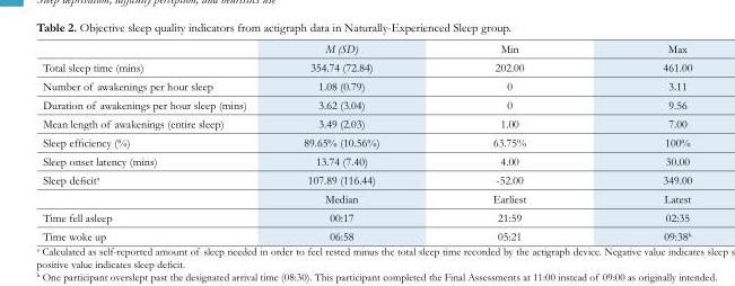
<table><thead><tr><td></td><td>M (SD)</td><td>Min</td><td>Max</td></tr></thead><tbody><tr><td>Total sleep time (mins)</td><td>354.74 (72.84)</td><td>202.00</td><td>461.00</td></tr><tr><td>Number of awakenings per hour sleep</td><td>1.08 (0.79)</td><td>0</td><td>3.11</td></tr><tr><td>Duration of awakenings per hour sleep (mins)</td><td>3.62 (3.04)</td><td>0</td><td>9.56</td></tr><tr><td>Mean length of awakenings (entire sleep)</td><td>3.49 (2.03)</td><td>1.00</td><td>7.00</td></tr><tr><td>Sleep efficiency (%)</td><td>89.65% (10.56%)</td><td>63.75%</td><td>100%</td></tr><tr><td>Sleep onset latency (mins)</td><td>13.74 (7.40)</td><td>4.00</td><td>30.00</td></tr><tr><td rowspan="2">Sleep deficit<sup>a</sup></td><td>107.89 (116.44)</td><td>-52.00</td><td>349.00</td></tr><tr><td>Median</td><td>Earliest</td><td>Latest</td></tr><tr><td>Time fell asleep</td><td>00:17</td><td>21:59</td><td>02:35</td></tr><tr><td>Time woke up</td><td>06:58</td><td>05:21</td><td>09:38<sup>b</sup></td></tr></tbody></table>